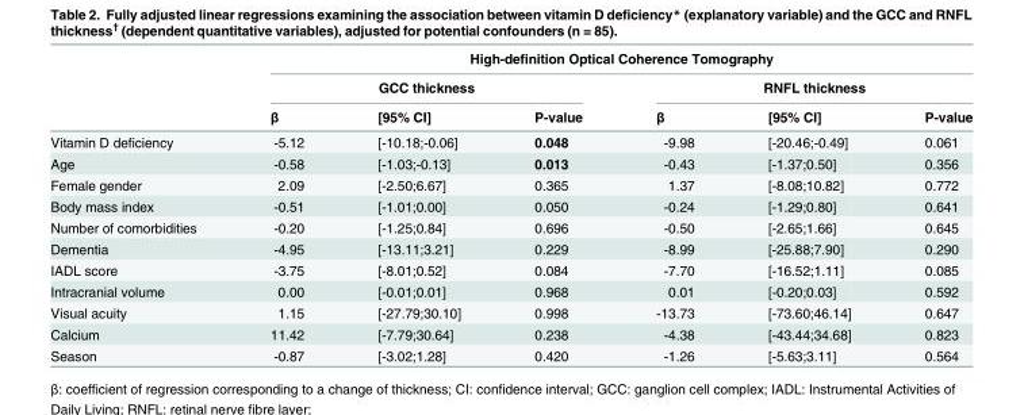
<table><thead><tr><td rowspan="3"></td><td colspan="6">High-definition Optical Coherence Tomography</td></tr><tr><td colspan="3">GCC thickness</td><td colspan="3">RNFL thickness</td></tr><tr><td>β</td><td>[95% CI]</td><td>P-value</td><td>β</td><td>[95% CI]</td><td>P-value</td></tr></thead><tbody><tr><td>Vitamin D deficiency</td><td>-5.12</td><td>[-10.18;-0.06]</td><td>0.048</td><td>-9.98</td><td>[-20.46;-0.49]</td><td>0.061</td></tr><tr><td>Age</td><td>-0.58</td><td>[-1.03;-0.13]</td><td>0.013</td><td>-0.43</td><td>[-1.37;0.50]</td><td>0.356</td></tr><tr><td>Female gender</td><td>2.09</td><td>[-2.50;6.67]</td><td>0.365</td><td>1.37</td><td>[-8.08;10.82]</td><td>0.772</td></tr><tr><td>Body mass index</td><td>-0.51</td><td>[-1.01;0.00]</td><td>0.050</td><td>-0.24</td><td>[-1.29;0.80]</td><td>0.641</td></tr><tr><td>Number of comorbidities</td><td>-0.20</td><td>[-1.25;0.84]</td><td>0.696</td><td>-0.50</td><td>[-2.65;1.66]</td><td>0.645</td></tr><tr><td>Dementia</td><td>-4.95</td><td>[-13.11;3.21]</td><td>0.229</td><td>-8.99</td><td>[-25.88;7.90]</td><td>0.290</td></tr><tr><td>IADL score</td><td>-3.75</td><td>[-8.01;0.52]</td><td>0.084</td><td>-7.70</td><td>[-16.52;1.11]</td><td>0.085</td></tr><tr><td>Intracranial volume</td><td>0.00</td><td>[-0.01;0.01]</td><td>0.968</td><td>0.01</td><td>[-0.20;0.03]</td><td>0.592</td></tr><tr><td>Visual acuity</td><td>1.15</td><td>[-27.79;30.10]</td><td>0.998</td><td>-13.73</td><td>[-73.60;46.14]</td><td>0.647</td></tr><tr><td>Calcium</td><td>11.42</td><td>[-7.79;30.64]</td><td>0.238</td><td>-4.38</td><td>[-43.44;34.68]</td><td>0.823</td></tr><tr><td>Season</td><td>-0.87</td><td>[-3.02;1.28]</td><td>0.420</td><td>-1.26</td><td>[-5.63;3.11]</td><td>0.564</td></tr></tbody></table>